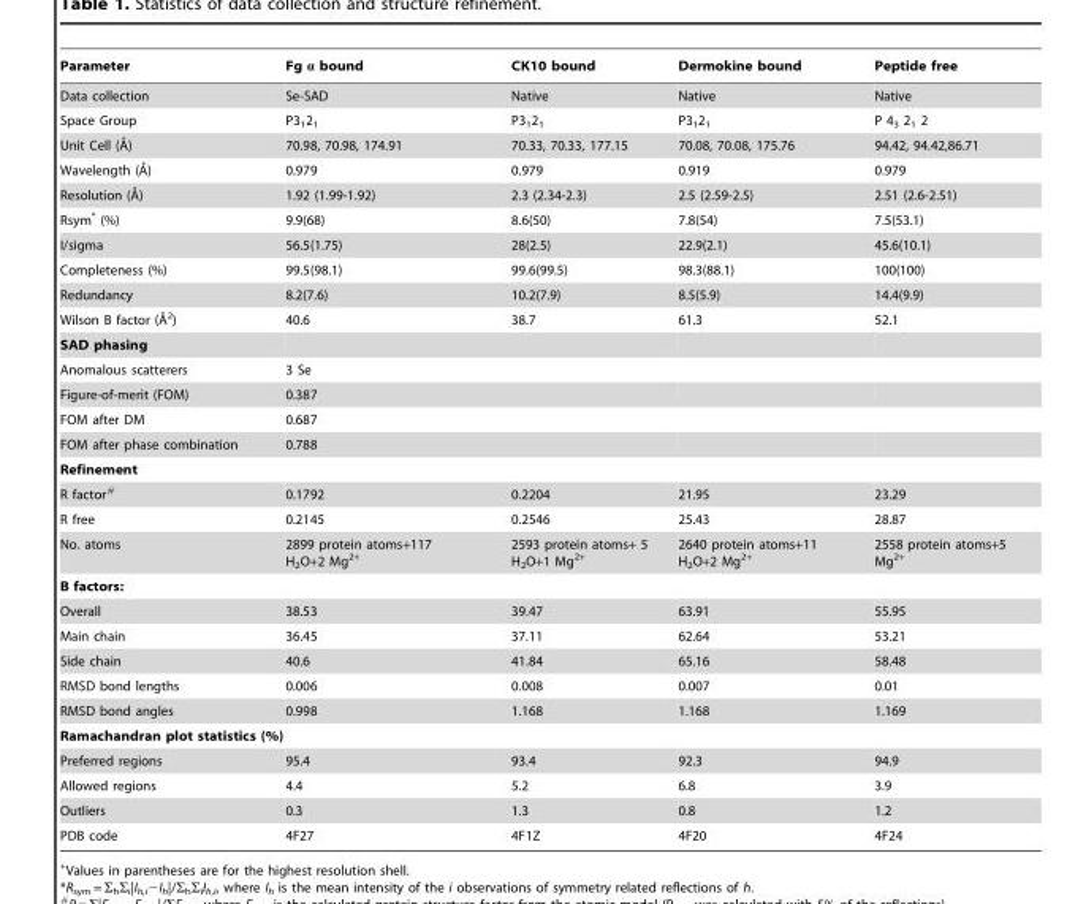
<table><thead><tr><td>Parameter</td><td>Fg α bound</td><td>CK10 bound</td><td>Dermokine bound</td><td>Peptide free</td></tr></thead><tbody><tr><td>Data collection</td><td>Se-SAD</td><td>Native</td><td>Native</td><td>Native</td></tr><tr><td>Space Group</td><td>P3<sub>1</sub>2<sub>1</sub></td><td>P3<sub>1</sub>2<sub>1</sub></td><td>P3<sub>1</sub>2<sub>1</sub></td><td>P 4<sub>3</sub> 2<sub>1</sub> 2</td></tr><tr><td>Unit Cell (A˚)</td><td>70.98, 70.98, 174.91</td><td>70.33, 70.33, 177.15</td><td>70.08, 70.08, 175.76</td><td>94.42, 94.42,86.71</td></tr><tr><td>Wavelength (A˚)</td><td>0.979</td><td>0.979</td><td>0.919</td><td>0.979</td></tr><tr><td>Resolution (A˚)</td><td>1.92 (1.99-1.92)</td><td>2.3 (2.34-2.3)</td><td>2.5 (2.59-2.5)</td><td>2.51 (2.6-2.51)</td></tr><tr><td>Rsym* (%)</td><td>9.9(68)</td><td>8.6(50)</td><td>7.8(54)</td><td>7.5(53.1)</td></tr><tr><td>I/sigma</td><td>56.5(1.75)</td><td>28(2.5)</td><td>22.9(2.1)</td><td>45.6(10.1)</td></tr><tr><td>Completeness (%)</td><td>99.5(98.1)</td><td>99.6(99.5)</td><td>98.3(88.1)</td><td>100(100)</td></tr><tr><td>Redundancy</td><td>8.2(7.6)</td><td>10.2(7.9)</td><td>8.5(5.9)</td><td>14.4(9.9)</td></tr><tr><td>Wilson B factor (A˚2)</td><td>40.6</td><td>38.7</td><td>61.3</td><td>52.1</td></tr><tr><td colspan="5">SAD phasing</td></tr><tr><td>Anomalous scatterers</td><td>3 Se</td><td></td><td></td><td></td></tr><tr><td>Figure-of-merit (FOM)</td><td>0.387</td><td></td><td></td><td></td></tr><tr><td>FOM after DM</td><td>0.687</td><td></td><td></td><td></td></tr><tr><td>FOM after phase combination</td><td>0.788</td><td></td><td></td><td></td></tr><tr><td colspan="5">Refinement</td></tr><tr><td>R factor#</td><td>0.1792</td><td>0.2204</td><td>21.95</td><td>23.29</td></tr><tr><td>R free</td><td>0.2145</td><td>0.2546</td><td>25.43</td><td>28.87</td></tr><tr><td>No. atoms</td><td>2899 protein atoms+117 H<sub>2</sub>O+2 Mg<sup>2+</sup></td><td>2593 protein atoms+ 5 H<sub>2</sub>O+1 Mg<sup>2+</sup></td><td>2640 protein atoms+11 H<sub>2</sub>O+2 Mg<sup>2+</sup></td><td>2558 protein atoms+5 Mg<sup>2+</sup></td></tr><tr><td colspan="5">B factors:</td></tr><tr><td>Overall</td><td>38.53</td><td>39.47</td><td>63.91</td><td>55.95</td></tr><tr><td>Main chain</td><td>36.45</td><td>37.11</td><td>62.64</td><td>53.21</td></tr><tr><td>Side chain</td><td>40.6</td><td>41.84</td><td>65.16</td><td>58.48</td></tr><tr><td>RMSD bond lengths</td><td>0.006</td><td>0.008</td><td>0.007</td><td>0.01</td></tr><tr><td>RMSD bond angles</td><td>0.998</td><td>1.168</td><td>1.168</td><td>1.169</td></tr><tr><td colspan="5">Ramachandran plot statistics (%)</td></tr><tr><td>Preferred regions</td><td>95.4</td><td>93.4</td><td>92.3</td><td>94.9</td></tr><tr><td>Allowed regions</td><td>4.4</td><td>5.2</td><td>6.8</td><td>3.9</td></tr><tr><td>Outliers</td><td>0.3</td><td>1.3</td><td>0.8</td><td>1.2</td></tr><tr><td>PDB code</td><td>4F27</td><td>4F1Z</td><td>4F20</td><td>4F24</td></tr></tbody></table>